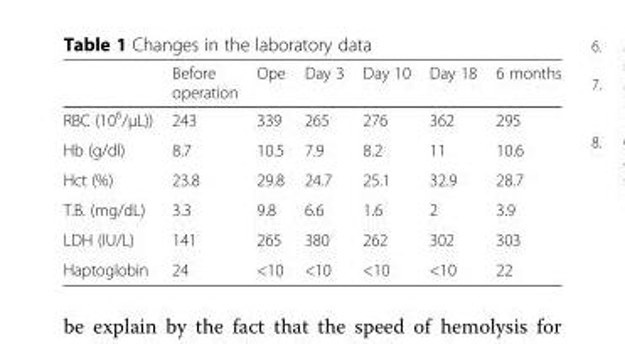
<table><thead><tr><td></td><td>Before operation</td><td>Ope</td><td>Day 3</td><td>Day 10</td><td>Day 18</td><td>6 months</td></tr></thead><tbody><tr><td>RBC (10<sup>6</sup>/μL))</td><td>243</td><td>339</td><td>265</td><td>276</td><td>362</td><td>295</td></tr><tr><td>Hb (g/dl)</td><td>8.7</td><td>10.5</td><td>7.9</td><td>8.2</td><td>11</td><td>10.6</td></tr><tr><td>Hct (%)</td><td>23.8</td><td>29.8</td><td>24.7</td><td>25.1</td><td>32.9</td><td>28.7</td></tr><tr><td>T.B. (mg/dL)</td><td>3.3</td><td>9.8</td><td>6.6</td><td>1.6</td><td>2</td><td>3.9</td></tr><tr><td>LDH (IU/L)</td><td>141</td><td>265</td><td>380</td><td>262</td><td>302</td><td>303</td></tr><tr><td>Haptoglobin</td><td>24</td><td>&lt;10</td><td>&lt;10</td><td>&lt;10</td><td>&lt;10</td><td>22</td></tr></tbody></table>